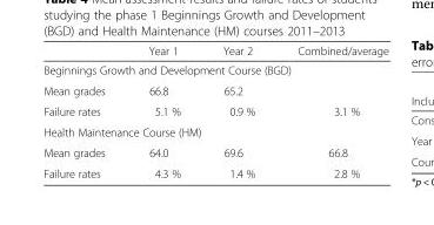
<table><thead><tr><td></td><td>Year 1</td><td>Year 2</td><td>Combined/average</td></tr></thead><tbody><tr><td colspan="4">Beginnings Growth and Development Course (BGD)</td></tr><tr><td>Mean grades</td><td>66.8</td><td>65.2</td><td></td></tr><tr><td>Failure rates</td><td>5.1 %</td><td>0.9 %</td><td>3.1 %</td></tr><tr><td colspan="4">Health Maintenance Course (HM)</td></tr><tr><td>Mean grades</td><td>64.0</td><td>69.6</td><td>66.8</td></tr><tr><td>Failure rates</td><td>4.3 %</td><td>1.4 %</td><td>2.8 %</td></tr></tbody></table>